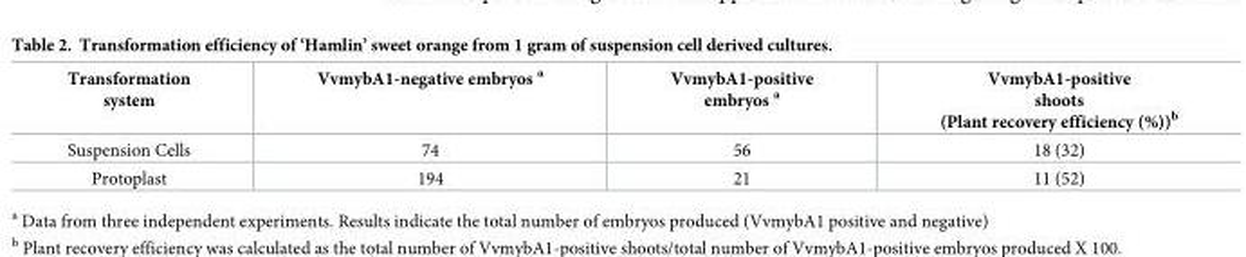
<table><thead><tr><td>Transformation system</td><td>VvmybA1-negative embryos <sup>a</sup></td><td>VvmybA1-positive embryos <sup>a</sup></td><td>VvmybA1-positive shoots (Plant recovery efficiency (%))<sup>b</sup></td></tr></thead><tbody><tr><td>Suspension Cells</td><td>74</td><td>56</td><td>18 (32)</td></tr><tr><td>Protoplast</td><td>194</td><td>21</td><td>11 (52)</td></tr></tbody></table>